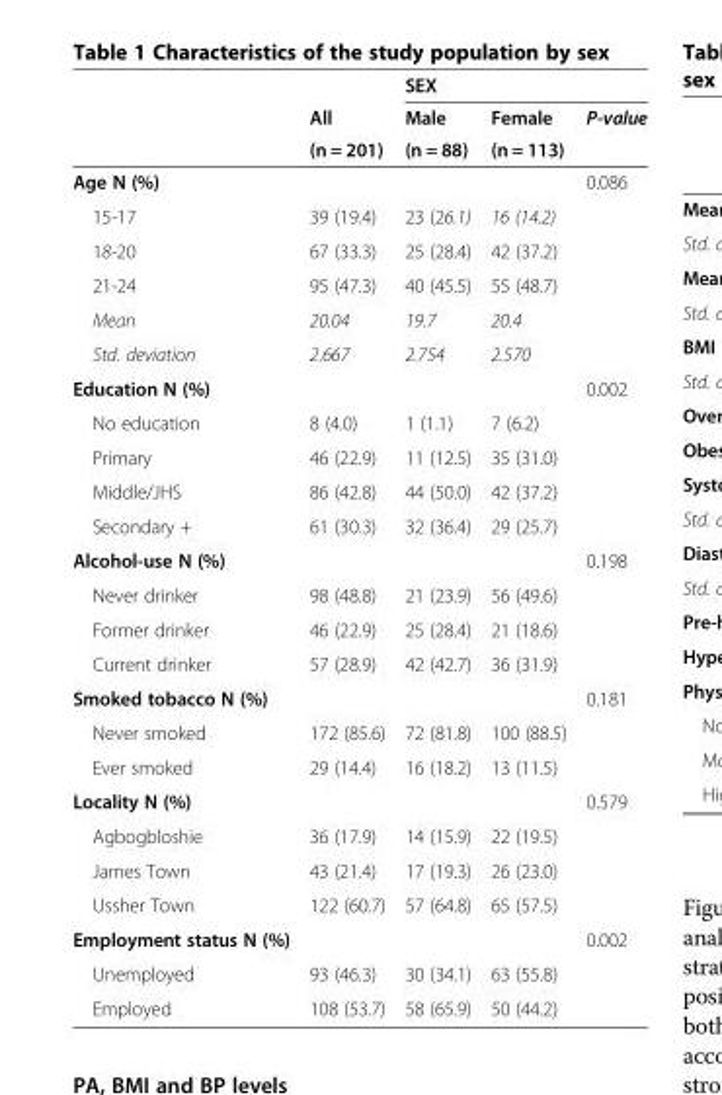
<table><thead><tr><td rowspan="3"></td><td rowspan="3">All (n = 201)</td><td colspan="3">SEX</td></tr><tr><td rowspan="2">Male (n = 88)</td><td rowspan="2">Female (n = 113)</td><td rowspan="2">P-value</td></tr><tr></tr></thead><tbody><tr><td>Age N (%)</td><td></td><td></td><td></td><td>0.086</td></tr><tr><td>15-17</td><td>39 (19.4)</td><td>23 (26.1)</td><td>16 (14.2)</td><td></td></tr><tr><td>18-20</td><td>67 (33.3)</td><td>25 (28.4)</td><td>42 (37.2)</td><td></td></tr><tr><td>21-24</td><td>95 (47.3)</td><td>40 (45.5)</td><td>55 (48.7)</td><td></td></tr><tr><td>Mean</td><td>20.04</td><td>19.7</td><td>20.4</td><td></td></tr><tr><td>Std. deviation</td><td>2.667</td><td>2.754</td><td>2.570</td><td></td></tr><tr><td>Education N (%)</td><td></td><td></td><td></td><td>0.002</td></tr><tr><td>No education</td><td>8 (4.0)</td><td>1 (1.1)</td><td>7 (6.2)</td><td></td></tr><tr><td>Primary</td><td>46 (22.9)</td><td>11 (12.5)</td><td>35 (31.0)</td><td></td></tr><tr><td>Middle/JHS</td><td>86 (42.8)</td><td>44 (50.0)</td><td>42 (37.2)</td><td></td></tr><tr><td>Secondary +</td><td>61 (30.3)</td><td>32 (36.4)</td><td>29 (25.7)</td><td></td></tr><tr><td>Alcohol-use N (%)</td><td></td><td></td><td></td><td>0.198</td></tr><tr><td>Never drinker</td><td>98 (48.8)</td><td>21 (23.9)</td><td>56 (49.6)</td><td></td></tr><tr><td>Former drinker</td><td>46 (22.9)</td><td>25 (28.4)</td><td>21 (18.6)</td><td></td></tr><tr><td>Current drinker</td><td>57 (28.9)</td><td>42 (42.7)</td><td>36 (31.9)</td><td></td></tr><tr><td>Smoked tobacco N (%)</td><td></td><td></td><td></td><td>0.181</td></tr><tr><td>Never smoked</td><td>172 (85.6)</td><td>72 (81.8)</td><td>100 (88.5)</td><td></td></tr><tr><td>Ever smoked</td><td>29 (14.4)</td><td>16 (18.2)</td><td>13 (11.5)</td><td></td></tr><tr><td>Locality N (%)</td><td></td><td></td><td></td><td>0.579</td></tr><tr><td>Agbogbloshie</td><td>36 (17.9)</td><td>14 (15.9)</td><td>22 (19.5)</td><td></td></tr><tr><td>James Town</td><td>43 (21.4)</td><td>17 (19.3)</td><td>26 (23.0)</td><td></td></tr><tr><td>Ussher Town</td><td>122 (60.7)</td><td>57 (64.8)</td><td>65 (57.5)</td><td></td></tr><tr><td>Employment status N (%)</td><td></td><td></td><td></td><td>0.002</td></tr><tr><td>Unemployed</td><td>93 (46.3)</td><td>30 (34.1)</td><td>63 (55.8)</td><td></td></tr><tr><td>Employed</td><td>108 (53.7)</td><td>58 (65.9)</td><td>50 (44.2)</td><td></td></tr></tbody></table>